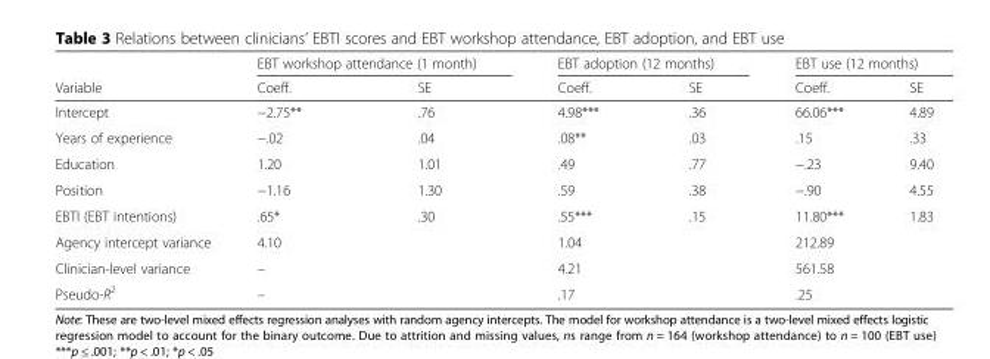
<table><thead><tr><td rowspan="2">Variable</td><td colspan="2">EBT workshop attendance (1 month)</td><td colspan="2">EBT adoption (12 months)</td><td colspan="2">EBT use (12 months)</td></tr><tr><td>Coeff.</td><td>SE</td><td>Coeff.</td><td>SE</td><td>Coeff.</td><td>SE</td></tr></thead><tbody><tr><td>Intercept</td><td>−2.75**</td><td>.76</td><td>4.98***</td><td>.36</td><td>66.06***</td><td>4.89</td></tr><tr><td>Years of experience</td><td>−.02</td><td>.04</td><td>.08**</td><td>.03</td><td>.15</td><td>.33</td></tr><tr><td>Education</td><td>1.20</td><td>1.01</td><td>.49</td><td>.77</td><td>−.23</td><td>9.40</td></tr><tr><td>Position</td><td>−1.16</td><td>1.30</td><td>.59</td><td>.38</td><td>−.90</td><td>4.55</td></tr><tr><td>EBTI (EBT intentions)</td><td>.65*</td><td>.30</td><td>.55***</td><td>.15</td><td>11.80***</td><td>1.83</td></tr><tr><td>Agency intercept variance</td><td>4.10</td><td></td><td>1.04</td><td></td><td>212.89</td><td></td></tr><tr><td>Clinician-level variance</td><td>–</td><td></td><td>4.21</td><td></td><td>561.58</td><td></td></tr><tr><td>Pseudo-R<sup>2</sup></td><td>–</td><td></td><td>.17</td><td></td><td>.25</td><td></td></tr></tbody></table>